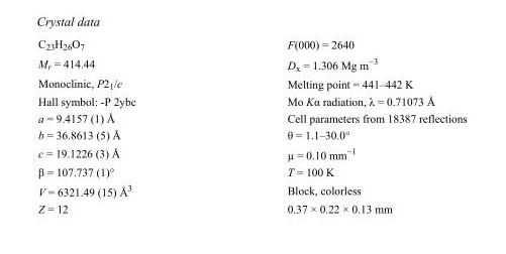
<table><tbody><tr><td>C<sub>23</sub>H<sub>26</sub>O<sub>7</sub></td><td>F(000) = 2640</td></tr><tr><td>M<sub>r</sub> = 414.44</td><td>D<sub>x</sub> = 1.306 Mg m<sup>−3</sup></td></tr><tr><td>Monoclinic, P2<sub>1</sub>/c</td><td>Melting point = 441–442 K</td></tr><tr><td>Hall symbol: -P 2ybc</td><td>Mo Kα radiation, λ = 0.71073 Å</td></tr><tr><td>a = 9.4157 (1) Å</td><td>Cell parameters from 18387 reflections</td></tr><tr><td>b = 36.8613 (5) Å</td><td>θ = 1.1–30.0°</td></tr><tr><td>c = 19.1226 (3) Å</td><td>µ = 0.10 mm<sup>−1</sup></td></tr><tr><td>β = 107.737 (1)°</td><td>T = 100 K</td></tr><tr><td>V = 6321.49 (15) Å<sup>3</sup></td><td>Block, colorless</td></tr><tr><td>Z = 12</td><td>0.37 × 0.22 × 0.13 mm</td></tr></tbody></table>